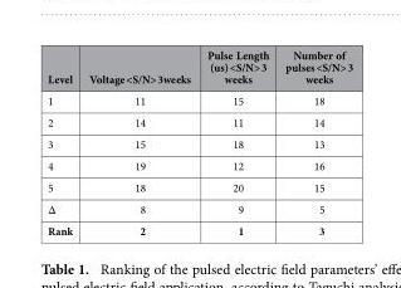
<table><thead><tr><td>Level</td><td>Voltage &lt;S/N&gt; 3weeks</td><td>Pulse Length (us) &lt;S/N&gt; 3 weeks</td><td>Number of pulses &lt;S/N&gt; 3 weeks</td></tr></thead><tbody><tr><td>1</td><td>11</td><td>15</td><td>18</td></tr><tr><td>2</td><td>14</td><td>11</td><td>14</td></tr><tr><td>3</td><td>15</td><td>18</td><td>13</td></tr><tr><td>4</td><td>19</td><td>12</td><td>16</td></tr><tr><td>5</td><td>18</td><td>20</td><td>15</td></tr><tr><td>Δ</td><td>8</td><td>9</td><td>5</td></tr><tr><td>Rank</td><td>2</td><td>1</td><td>3</td></tr></tbody></table>